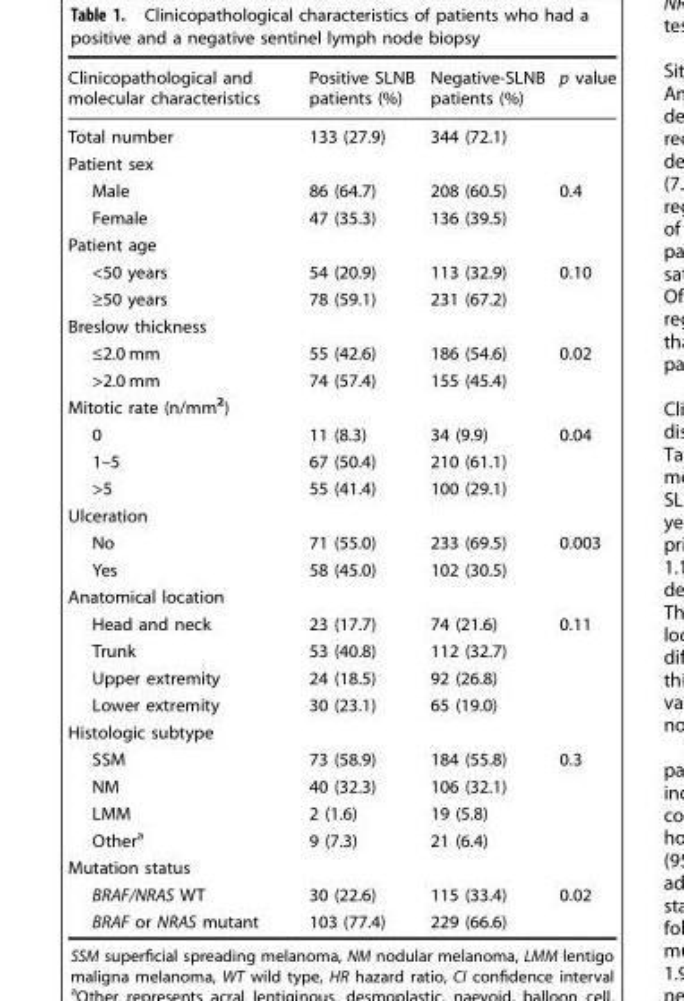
<table><thead><tr><td>Clinicopathological and molecular characteristics</td><td>Positive SLNB patients (%)</td><td>Negative-SLNB patients (%)</td><td>p value</td></tr></thead><tbody><tr><td>Total number</td><td>133 (27.9)</td><td>344 (72.1)</td><td></td></tr><tr><td colspan="4">Patient sex</td></tr><tr><td>Male</td><td>86 (64.7)</td><td>208 (60.5)</td><td rowspan="2">0.4</td></tr><tr><td>Female</td><td>47 (35.3)</td><td>136 (39.5)</td></tr><tr><td colspan="4">Patient age</td></tr><tr><td>&lt;50 years</td><td>54 (20.9)</td><td>113 (32.9)</td><td rowspan="2">0.10</td></tr><tr><td>≥50 years</td><td>78 (59.1)</td><td>231 (67.2)</td></tr><tr><td colspan="4">Breslow thickness</td></tr><tr><td>≤2.0 mm</td><td>55 (42.6)</td><td>186 (54.6)</td><td rowspan="2">0.02</td></tr><tr><td>&gt;2.0 mm</td><td>74 (57.4)</td><td>155 (45.4)</td></tr><tr><td colspan="4">Mitotic rate (n/mm<sup>2</sup>)</td></tr><tr><td>0</td><td>11 (8.3)</td><td>34 (9.9)</td><td rowspan="3">0.04</td></tr><tr><td>1–5</td><td>67 (50.4)</td><td>210 (61.1)</td></tr><tr><td>&gt;5</td><td>55 (41.4)</td><td>100 (29.1)</td></tr><tr><td colspan="4">Ulceration</td></tr><tr><td>No</td><td>71 (55.0)</td><td>233 (69.5)</td><td rowspan="2">0.003</td></tr><tr><td>Yes</td><td>58 (45.0)</td><td>102 (30.5)</td></tr><tr><td colspan="4">Anatomical location</td></tr><tr><td>Head and neck</td><td>23 (17.7)</td><td>74 (21.6)</td><td rowspan="4">0.11</td></tr><tr><td>Trunk</td><td>53 (40.8)</td><td>112 (32.7)</td></tr><tr><td>Upper extremity</td><td>24 (18.5)</td><td>92 (26.8)</td></tr><tr><td>Lower extremity</td><td>30 (23.1)</td><td>65 (19.0)</td></tr><tr><td colspan="4">Histologic subtype</td></tr><tr><td>SSM</td><td>73 (58.9)</td><td>184 (55.8)</td><td rowspan="4">0.3</td></tr><tr><td>NM</td><td>40 (32.3)</td><td>106 (32.1)</td></tr><tr><td>LMM</td><td>2 (1.6)</td><td>19 (5.8)</td></tr><tr><td>Other<sup>a</sup></td><td>9 (7.3)</td><td>21 (6.4)</td></tr><tr><td colspan="4">Mutation status</td></tr><tr><td>BRAF/NRAS WT</td><td>30 (22.6)</td><td>115 (33.4)</td><td rowspan="2">0.02</td></tr><tr><td>BRAF or NRAS mutant</td><td>103 (77.4)</td><td>229 (66.6)</td></tr></tbody></table>